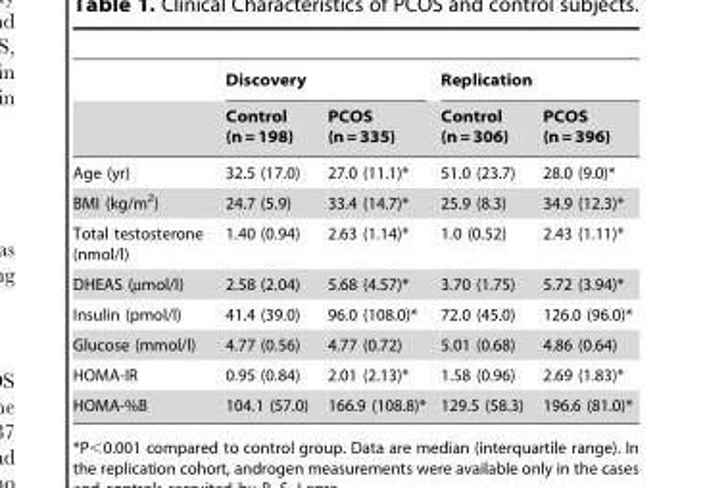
<table><thead><tr><td rowspan="2"></td><td colspan="2">Discovery</td><td colspan="2">Replication</td></tr><tr><td>Control (n = 198)</td><td>PCOS (n = 335)</td><td>Control (n = 306)</td><td>PCOS (n = 396)</td></tr></thead><tbody><tr><td>Age (yr)</td><td>32.5 (17.0)</td><td>27.0 (11.1)*</td><td>51.0 (23.7)</td><td>28.0 (9.0)*</td></tr><tr><td>BMI (kg/m<sup>2</sup>)</td><td>24.7 (5.9)</td><td>33.4 (14.7)*</td><td>25.9 (8.3)</td><td>34.9 (12.3)*</td></tr><tr><td>Total testosterone (nmol/l)</td><td>1.40 (0.94)</td><td>2.63 (1.14)*</td><td>1.0 (0.52)</td><td>2.43 (1.11)*</td></tr><tr><td>DHEAS (µmol/l)</td><td>2.58 (2.04)</td><td>5.68 (4.57)*</td><td>3.70 (1.75)</td><td>5.72 (3.94)*</td></tr><tr><td>Insulin (pmol/l)</td><td>41.4 (39.0)</td><td>96.0 (108.0)*</td><td>72.0 (45.0)</td><td>126.0 (96.0)*</td></tr><tr><td>Glucose (mmol/l)</td><td>4.77 (0.56)</td><td>4.77 (0.72)</td><td>5.01 (0.68)</td><td>4.86 (0.64)</td></tr><tr><td>HOMA-IR</td><td>0.95 (0.84)</td><td>2.01 (2.13)*</td><td>1.58 (0.96)</td><td>2.69 (1.83)*</td></tr><tr><td>HOMA-%B</td><td>104.1 (57.0)</td><td>166.9 (108.8)*</td><td>129.5 (58.3)</td><td>196.6 (81.0)*</td></tr></tbody></table>